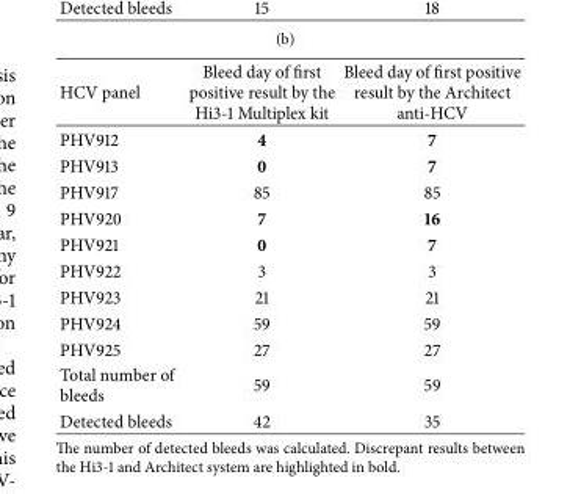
<table><thead><tr><td>HCV panel</td><td>Bleed day of first positive result by the Hi3-1 Multiplex kit</td><td>Bleed day of first positive result by the Architect anti-HCV</td></tr></thead><tbody><tr><td>PHV912</td><td>4</td><td>7</td></tr><tr><td>PHV913</td><td>0</td><td>7</td></tr><tr><td>PHV917</td><td>85</td><td>85</td></tr><tr><td>PHV920</td><td>7</td><td>16</td></tr><tr><td>PHV921</td><td>0</td><td>7</td></tr><tr><td>PHV922</td><td>3</td><td>3</td></tr><tr><td>PHV923</td><td>21</td><td>21</td></tr><tr><td>PHV924</td><td>59</td><td>59</td></tr><tr><td>PHV925</td><td>27</td><td>27</td></tr><tr><td>Total number of bleeds</td><td>59</td><td>59</td></tr><tr><td>Detected bleeds</td><td>42</td><td>35</td></tr></tbody></table>